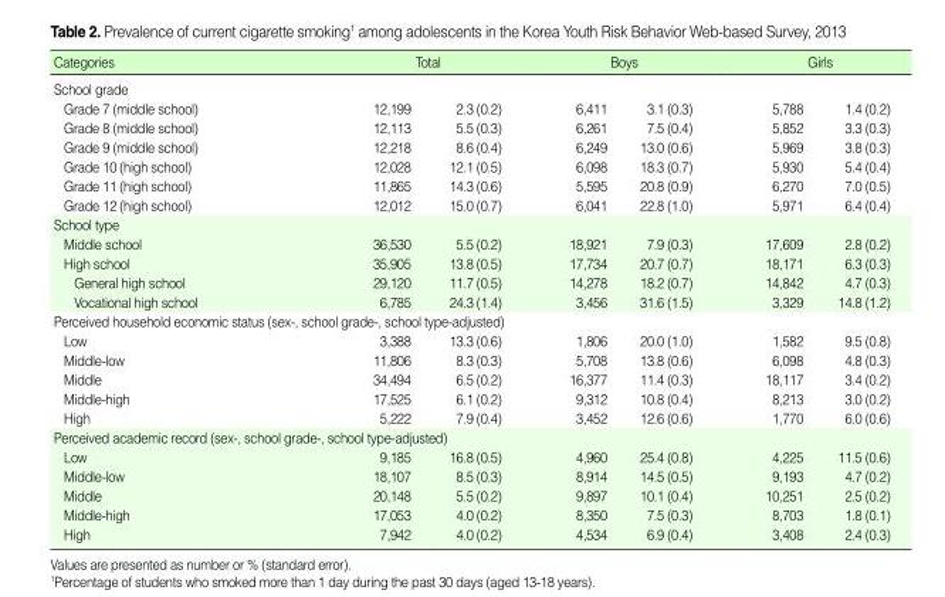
<table><thead><tr><td>Categories</td><td colspan="2">Total</td><td colspan="2">Boys</td><td colspan="2">Girls</td></tr><tr><td colspan="7">School grade</td></tr><tr><td>Grade 7 (middle school)</td><td>12,199</td><td>2.3 (0.2)</td><td>6,411</td><td>3.1 (0.3)</td><td>5,788</td><td>1.4 (0.2)</td></tr></thead><tbody><tr><td>Grade 8 (middle school)</td><td>12,113</td><td>5.5 (0.3)</td><td>6,261</td><td>7.5 (0.4)</td><td>5,852</td><td>3.3 (0.3)</td></tr><tr><td>Grade 9 (middle school)</td><td>12,218</td><td>8.6 (0.4)</td><td>6,249</td><td>13.0 (0.6)</td><td>5,969</td><td>3.8 (0.3)</td></tr><tr><td>Grade 10 (high school)</td><td>12,028</td><td>12.1 (0.5)</td><td>6,098</td><td>18.3 (0.7)</td><td>5,930</td><td>5.4 (0.4)</td></tr><tr><td>Grade 11 (high school)</td><td>11,865</td><td>14.3 (0.6)</td><td>5,595</td><td>20.8 (0.9)</td><td>6,270</td><td>7.0 (0.5)</td></tr><tr><td>Grade 12 (high school)</td><td>12,012</td><td>15.0 (0.7)</td><td>6,041</td><td>22.8 (1.0)</td><td>5,971</td><td>6.4 (0.4)</td></tr><tr><td colspan="7">School type</td></tr><tr><td>Middle school</td><td>36,530</td><td>5.5 (0.2)</td><td>18,921</td><td>7.9 (0.3)</td><td>17,609</td><td>2.8 (0.2)</td></tr><tr><td>High school</td><td>35,905</td><td>13.8 (0.5)</td><td>17,734</td><td>20.7 (0.7)</td><td>18,171</td><td>6.3 (0.3)</td></tr><tr><td>General high school</td><td>29,120</td><td>11.7 (0.5)</td><td>14,278</td><td>18.2 (0.7)</td><td>14,842</td><td>4.7 (0.3)</td></tr><tr><td>Vocational high school</td><td>6,785</td><td>24.3 (1.4)</td><td>3,456</td><td>31.6 (1.5)</td><td>3,329</td><td>14.8 (1.2)</td></tr><tr><td colspan="7">Perceived household economic status (sex-, school grade-, school type-adjusted)</td></tr><tr><td>Low</td><td>3,388</td><td>13.3 (0.6)</td><td>1,806</td><td>20.0 (1.0)</td><td>1,582</td><td>9.5 (0.8)</td></tr><tr><td>Middle-low</td><td>11,806</td><td>8.3 (0.3)</td><td>5,708</td><td>13.8 (0.6)</td><td>6,098</td><td>4.8 (0.3)</td></tr><tr><td>Middle</td><td>34,494</td><td>6.5 (0.2)</td><td>16,377</td><td>11.4 (0.3)</td><td>18,117</td><td>3.4 (0.2)</td></tr><tr><td>Middle-high</td><td>17,525</td><td>6.1 (0.2)</td><td>9,312</td><td>10.8 (0.4)</td><td>8,213</td><td>3.0 (0.2)</td></tr><tr><td>High</td><td>5,222</td><td>7.9 (0.4)</td><td>3,452</td><td>12.6 (0.6)</td><td>1,770</td><td>6.0 (0.6)</td></tr><tr><td colspan="7">Perceived academic record (sex-, school grade-, school type-adjusted)</td></tr><tr><td>Low</td><td>9,185</td><td>16.8 (0.5)</td><td>4,960</td><td>25.4 (0.8)</td><td>4,225</td><td>11.5 (0.6)</td></tr><tr><td>Middle-low</td><td>18,107</td><td>8.5 (0.3)</td><td>8,914</td><td>14.5 (0.5)</td><td>9,193</td><td>4.7 (0.2)</td></tr><tr><td>Middle</td><td>20,148</td><td>5.5 (0.2)</td><td>9,897</td><td>10.1 (0.4)</td><td>10,251</td><td>2.5 (0.2)</td></tr><tr><td>Middle-high</td><td>17,053</td><td>4.0 (0.2)</td><td>8,350</td><td>7.5 (0.3)</td><td>8,703</td><td>1.8 (0.1)</td></tr><tr><td>High</td><td>7,942</td><td>4.0 (0.2)</td><td>4,534</td><td>6.9 (0.4)</td><td>3,408</td><td>2.4 (0.3)</td></tr></tbody></table>